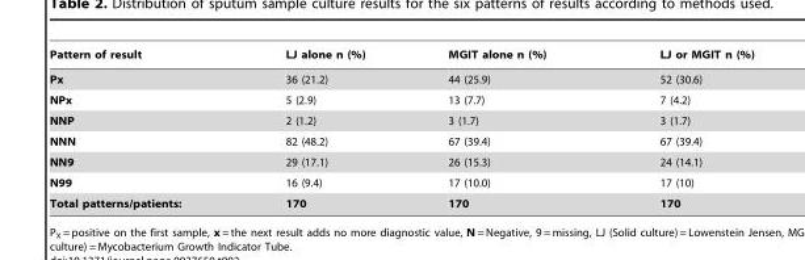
<table><thead><tr><td>Pattern of result</td><td>LJ alone n (%)</td><td>MGIT alone n (%)</td><td>LJ or MGIT n (%)</td></tr></thead><tbody><tr><td>Px</td><td>36 (21.2)</td><td>44 (25.9)</td><td>52 (30.6)</td></tr><tr><td>NPx</td><td>5 (2.9)</td><td>13 (7.7)</td><td>7 (4.2)</td></tr><tr><td>NNP</td><td>2 (1.2)</td><td>3 (1.7)</td><td>3 (1.7)</td></tr><tr><td>NNN</td><td>82 (48.2)</td><td>67 (39.4)</td><td>67 (39.4)</td></tr><tr><td>NN9</td><td>29 (17.1)</td><td>26 (15.3)</td><td>24 (14.1)</td></tr><tr><td>N99</td><td>16 (9.4)</td><td>17 (10.0)</td><td>17 (10)</td></tr><tr><td>Total patterns/patients:</td><td>170</td><td>170</td><td>170</td></tr></tbody></table>